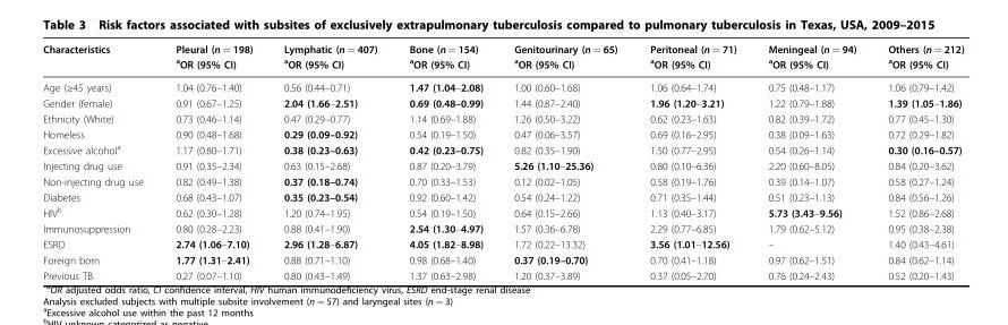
<table><thead><tr><td rowspan="2">Characteristics</td><td rowspan="2">Pleural (n = 198) <sup>a</sup>OR (95% CI)</td><td rowspan="2">Lymphatic (n = 407) <sup>a</sup>OR (95% CI)</td><td rowspan="2">Bone (n = 154) <sup>a</sup>OR (95% CI)</td><td rowspan="2">Genitourinary (n = 65) <sup>a</sup>OR (95% CI)</td><td rowspan="2">Peritoneal (n = 71) <sup>a</sup>OR (95% CI)</td><td rowspan="2">Meningeal (n = 94) <sup>a</sup>OR (95% CI)</td><td rowspan="2">Others (n = 212) <sup>a</sup>OR (95% CI)</td></tr><tr></tr></thead><tbody><tr><td>Age (≥45 years)</td><td>1.04 (0.76–1.40)</td><td>0.56 (0.44–0.71)</td><td>1.47 (1.04–2.08)</td><td>1.00 (0.60–1.68)</td><td>1.06 (0.64–1.74)</td><td>0.75 (0.48–1.17)</td><td>1.06 (0.79–1.42)</td></tr><tr><td>Gender (female)</td><td>0.91 (0.67–1.25)</td><td>2.04 (1.66–2.51)</td><td>0.69 (0.48–0.99)</td><td>1.44 (0.87–2.40)</td><td>1.96 (1.20–3.21)</td><td>1.22 (0.79–1.88)</td><td>1.39 (1.05–1.86)</td></tr><tr><td>Ethnicity (White)</td><td>0.73 (0.46–1.14)</td><td>0.47 (0.29–0.77)</td><td>1.14 (0.69–1.88)</td><td>1.26 (0.50–3.22)</td><td>0.62 (0.23–1.63)</td><td>0.82 (0.39–1.72)</td><td>0.77 (0.45–1.30)</td></tr><tr><td>Homeless</td><td>0.90 (0.48–1.68)</td><td>0.29 (0.09–0.92)</td><td>0.54 (0.19–1.50)</td><td>0.47 (0.06–3.57)</td><td>0.69 (0.16–2.95)</td><td>0.38 (0.09–1.63)</td><td>0.72 (0.29–1.82)</td></tr><tr><td>Excessive alcohol<sup>a</sup></td><td>1.17 (0.80–1.71)</td><td>0.38 (0.23–0.63)</td><td>0.42 (0.23–0.75)</td><td>0.82 (0.35–1.90)</td><td>1.50 (0.77–2.95)</td><td>0.54 (0.26–1.14)</td><td>0.30 (0.16–0.57)</td></tr><tr><td>Injecting drug use</td><td>0.91 (0.35–2.34)</td><td>0.63 (0.15–2.68)</td><td>0.87 (0.20–3.79)</td><td>5.26 (1.10–25.36)</td><td>0.80 (0.10–6.36)</td><td>2.20 (0.60–8.05)</td><td>0.84 (0.20–3.62)</td></tr><tr><td>Non-injecting drug use</td><td>0.82 (0.49–1.38)</td><td>0.37 (0.18–0.74)</td><td>0.70 (0.33–1.53)</td><td>0.12 (0.02–1.05)</td><td>0.58 (0.19–1.76)</td><td>0.39 (0.14–1.07)</td><td>0.58 (0.27–1.24)</td></tr><tr><td>Diabetes</td><td>0.68 (0.43–1.07)</td><td>0.35 (0.23–0.54)</td><td>0.92 (0.60–1.42)</td><td>0.54 (0.24–1.22)</td><td>0.71 (0.35–1.44)</td><td>0.51 (0.23–1.13)</td><td>0.84 (0.56–1.26)</td></tr><tr><td>HIV<sup>b</sup></td><td>0.62 (0.30–1.28)</td><td>1.20 (0.74–1.95)</td><td>0.54 (0.19–1.50)</td><td>0.64 (0.15–2.66)</td><td>1.13 (0.40–3.17)</td><td>5.73 (3.43–9.56)</td><td>1.52 (0.86–2.68)</td></tr><tr><td>Immunosuppression</td><td>0.80 (0.28–2.23)</td><td>0.88 (0.41–1.90)</td><td>2.54 (1.30–4.97)</td><td>1.57 (0.36–6.78)</td><td>2.29 (0.77–6.85)</td><td>1.79 (0.62–5.12)</td><td>0.95 (0.38–2.38)</td></tr><tr><td>ESRD</td><td>2.74 (1.06–7.10)</td><td>2.96 (1.28–6.87)</td><td>4.05 (1.82–8.98)</td><td>1.72 (0.22–13.32)</td><td>3.56 (1.01–12.56)</td><td>–</td><td>1.40 (0.43–4.61)</td></tr><tr><td>Foreign born</td><td>1.77 (1.31–2.41)</td><td>0.88 (0.71–1.10)</td><td>0.98 (0.68–1.40)</td><td>0.37 (0.19–0.70)</td><td>0.70 (0.41–1.18)</td><td>0.97 (0.62–1.51)</td><td>0.84 (0.62–1.14)</td></tr><tr><td>Previous TB</td><td>0.27 (0.07–1.10)</td><td>0.80 (0.43–1.49)</td><td>1.37 (0.63–2.98)</td><td>1.20 (0.37–3.89)</td><td>0.37 (0.05–2.70)</td><td>0.76 (0.24–2.43)</td><td>0.52 (0.20–1.43)</td></tr></tbody></table>